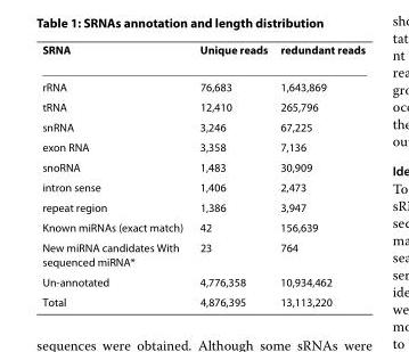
<table><thead><tr><td>SRNA</td><td>Unique reads</td><td>redundant reads</td></tr></thead><tbody><tr><td>rRNA</td><td>76,683</td><td>1,643,869</td></tr><tr><td>tRNA</td><td>12,410</td><td>265,796</td></tr><tr><td>snRNA</td><td>3,246</td><td>67,225</td></tr><tr><td>exon RNA</td><td>3,358</td><td>7,136</td></tr><tr><td>snoRNA</td><td>1,483</td><td>30,909</td></tr><tr><td>intron sense</td><td>1,406</td><td>2,473</td></tr><tr><td>repeat region</td><td>1,386</td><td>3,947</td></tr><tr><td>Known miRNAs (exact match)</td><td>42</td><td>156,639</td></tr><tr><td>New miRNA candidates With sequenced miRNA*</td><td>23</td><td>764</td></tr><tr><td>Un-annotated</td><td>4,776,358</td><td>10,934,462</td></tr><tr><td>Total</td><td>4,876,395</td><td>13,113,220</td></tr></tbody></table>